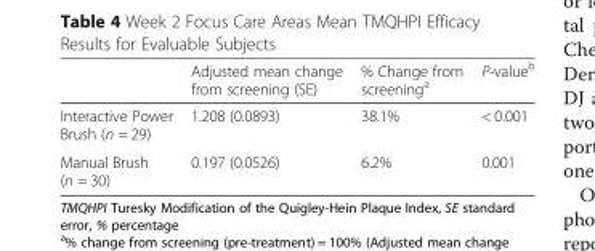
<table><thead><tr><td></td><td>Adjusted mean change from screening (SE)</td><td>% Change from screening<sup>a</sup></td><td>P-value<sup>b</sup></td></tr></thead><tbody><tr><td>Interactive Power Brush (n = 29)</td><td>1.208 (0.0893)</td><td>38.1%</td><td>&lt; 0.001</td></tr><tr><td>Manual Brush (n = 30)</td><td>0.197 (0.0526)</td><td>6.2%</td><td>0.001</td></tr></tbody></table>